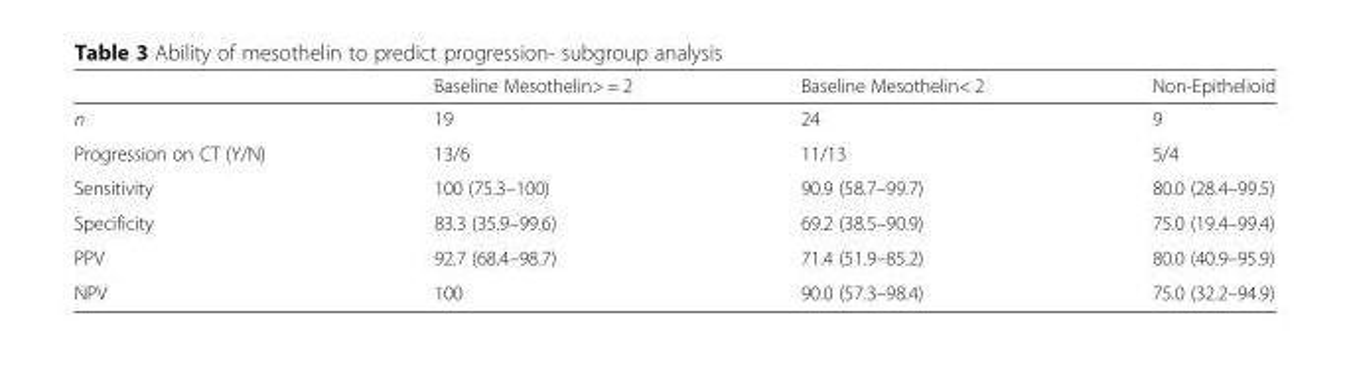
<table><thead><tr><td></td><td>Baseline Mesothelin&gt; = 2</td><td>Baseline Mesothelin&lt; 2</td><td>Non-Epithelioid</td></tr></thead><tbody><tr><td>n</td><td>19</td><td>24</td><td>9</td></tr><tr><td>Progression on CT (Y/N)</td><td>13/6</td><td>11/13</td><td>5/4</td></tr><tr><td>Sensitivity</td><td>100 (75.3–100)</td><td>90.9 (58.7–99.7)</td><td>80.0 (28.4–99.5)</td></tr><tr><td>Specificity</td><td>83.3 (35.9–99.6)</td><td>69.2 (38.5–90.9)</td><td>75.0 (19.4–99.4)</td></tr><tr><td>PPV</td><td>92.7 (68.4–98.7)</td><td>71.4 (51.9–85.2)</td><td>80.0 (40.9–95.9)</td></tr><tr><td>NPV</td><td>100</td><td>90.0 (57.3–98.4)</td><td>75.0 (32.2–94.9)</td></tr></tbody></table>